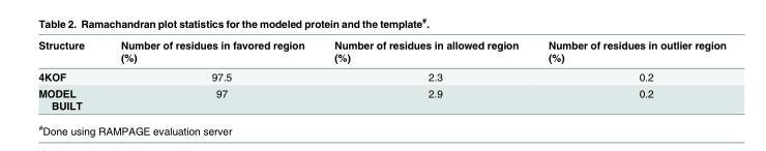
<table><thead><tr><td>Structure</td><td>Number of residues in favored region (%)</td><td>Number of residues in allowed region (%)</td><td>Number of residues in outlier region (%)</td></tr></thead><tbody><tr><td>4KOF</td><td>97.5</td><td>2.3</td><td>0.2</td></tr><tr><td>MODEL BUILT</td><td>97</td><td>2.9</td><td>0.2</td></tr></tbody></table>